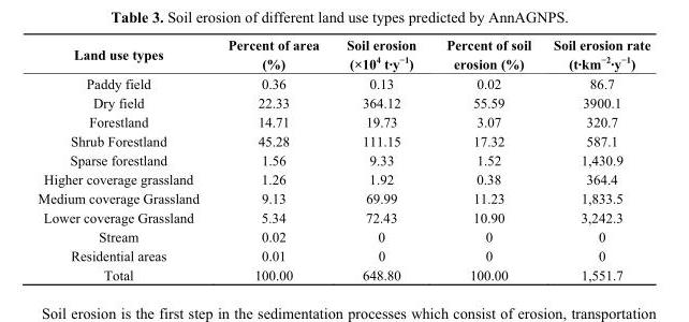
<table><thead><tr><td>Land use types</td><td>Percent of area (%)</td><td>Soil erosion (×10<sup>4</sup> t·y<sup>−1</sup>)</td><td>Percent of soil erosion (%)</td><td>Soil erosion rate (t·km<sup>−2</sup>·y<sup>−1</sup>)</td></tr></thead><tbody><tr><td>Paddy field</td><td>0.36</td><td>0.13</td><td>0.02</td><td>86.7</td></tr><tr><td>Dry field</td><td>22.33</td><td>364.12</td><td>55.59</td><td>3900.1</td></tr><tr><td>Forestland</td><td>14.71</td><td>19.73</td><td>3.07</td><td>320.7</td></tr><tr><td>Shrub Forestland</td><td>45.28</td><td>111.15</td><td>17.32</td><td>587.1</td></tr><tr><td>Sparse forestland</td><td>1.56</td><td>9.33</td><td>1.52</td><td>1,430.9</td></tr><tr><td>Higher coverage grassland</td><td>1.26</td><td>1.92</td><td>0.38</td><td>364.4</td></tr><tr><td>Medium coverage Grassland</td><td>9.13</td><td>69.99</td><td>11.23</td><td>1,833.5</td></tr><tr><td>Lower coverage Grassland</td><td>5.34</td><td>72.43</td><td>10.90</td><td>3,242.3</td></tr><tr><td>Stream</td><td>0.02</td><td>0</td><td>0</td><td>0</td></tr><tr><td>Residential areas</td><td>0.01</td><td>0</td><td>0</td><td>0</td></tr><tr><td>Total</td><td>100.00</td><td>648.80</td><td>100.00</td><td>1,551.7</td></tr></tbody></table>